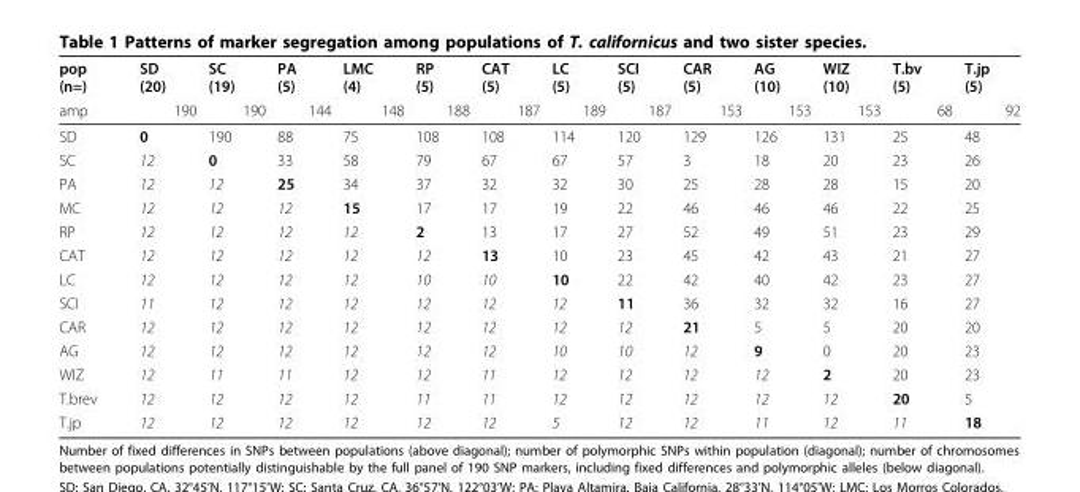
<table><thead><tr><td rowspan="2">pop (n=) amp</td><td rowspan="2">SD (20) 190</td><td rowspan="2">SC (19) 190</td><td rowspan="2">PA (5) 144</td><td rowspan="2">LMC (4) 148</td><td rowspan="2">RP (5) 188</td><td rowspan="2">CAT (5) 187</td><td rowspan="2">LC (5) 189</td><td rowspan="2">SCI (5) 187</td><td rowspan="2">CAR (5) 153</td><td rowspan="2">AG (10) 153</td><td rowspan="2">WIZ (10) 153</td><td rowspan="2">T.bv (5) 68</td><td rowspan="2">T.jp (5) 92</td></tr><tr></tr></thead><tbody><tr><td>SD</td><td>0</td><td>190</td><td>88</td><td>75</td><td>108</td><td>108</td><td>114</td><td>120</td><td>129</td><td>126</td><td>131</td><td>25</td><td>48</td></tr><tr><td>SC</td><td>12</td><td>0</td><td>33</td><td>58</td><td>79</td><td>67</td><td>67</td><td>57</td><td>3</td><td>18</td><td>20</td><td>23</td><td>26</td></tr><tr><td>PA</td><td>12</td><td>12</td><td>25</td><td>34</td><td>37</td><td>32</td><td>32</td><td>30</td><td>25</td><td>28</td><td>28</td><td>15</td><td>20</td></tr><tr><td>MC</td><td>12</td><td>12</td><td>12</td><td>15</td><td>17</td><td>17</td><td>19</td><td>22</td><td>46</td><td>46</td><td>46</td><td>22</td><td>25</td></tr><tr><td>RP</td><td>12</td><td>12</td><td>12</td><td>12</td><td>2</td><td>13</td><td>17</td><td>27</td><td>52</td><td>49</td><td>51</td><td>23</td><td>29</td></tr><tr><td>CAT</td><td>12</td><td>12</td><td>12</td><td>12</td><td>12</td><td>13</td><td>10</td><td>23</td><td>45</td><td>42</td><td>43</td><td>21</td><td>27</td></tr><tr><td>LC</td><td>12</td><td>12</td><td>12</td><td>12</td><td>10</td><td>10</td><td>10</td><td>22</td><td>42</td><td>40</td><td>42</td><td>23</td><td>27</td></tr><tr><td>SCI</td><td>11</td><td>12</td><td>12</td><td>12</td><td>12</td><td>12</td><td>12</td><td>11</td><td>36</td><td>32</td><td>32</td><td>16</td><td>27</td></tr><tr><td>CAR</td><td>12</td><td>12</td><td>12</td><td>12</td><td>12</td><td>12</td><td>12</td><td>12</td><td>21</td><td>5</td><td>5</td><td>20</td><td>20</td></tr><tr><td>AG</td><td>12</td><td>12</td><td>12</td><td>12</td><td>12</td><td>12</td><td>10</td><td>10</td><td>12</td><td>9</td><td>0</td><td>20</td><td>23</td></tr><tr><td>WIZ</td><td>12</td><td>11</td><td>11</td><td>12</td><td>12</td><td>11</td><td>12</td><td>12</td><td>12</td><td>12</td><td>2</td><td>20</td><td>23</td></tr><tr><td>T.brev</td><td>12</td><td>12</td><td>12</td><td>12</td><td>11</td><td>11</td><td>12</td><td>12</td><td>12</td><td>12</td><td>12</td><td>20</td><td>5</td></tr><tr><td>T.jp</td><td>12</td><td>12</td><td>12</td><td>12</td><td>12</td><td>12</td><td>5</td><td>12</td><td>12</td><td>11</td><td>12</td><td>11</td><td>18</td></tr></tbody></table>